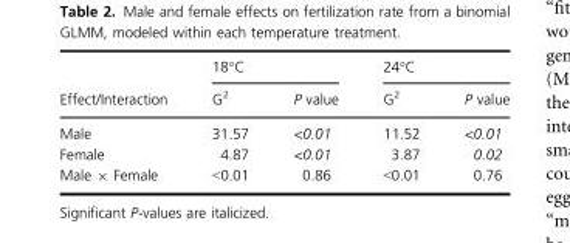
<table><thead><tr><td rowspan="2">Effect/Interaction</td><td colspan="2">18°C</td><td colspan="2">24°C</td></tr><tr><td>G<sup>2</sup></td><td>P value</td><td>G<sup>2</sup></td><td>P value</td></tr></thead><tbody><tr><td>Male</td><td>31.57</td><td>&lt;0.01</td><td>11.52</td><td>&lt;0.01</td></tr><tr><td>Female</td><td>4.87</td><td>&lt;0.01</td><td>3.87</td><td>0.02</td></tr><tr><td>Male × Female</td><td>&lt;0.01</td><td>0.86</td><td>&lt;0.01</td><td>0.76</td></tr></tbody></table>